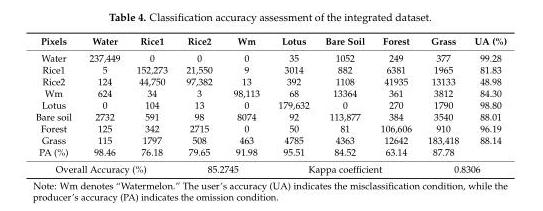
<table><thead><tr><td>Pixels</td><td>Water</td><td>Rice1</td><td>Rice2</td><td>Wm</td><td>Lotus</td><td>Bare Soil</td><td>Forest</td><td>Grass</td><td>UA (%)</td></tr></thead><tbody><tr><td>Water</td><td>237,449</td><td>0</td><td>0</td><td>0</td><td>35</td><td>1052</td><td>249</td><td>377</td><td>99.28</td></tr><tr><td>Rice1</td><td>5</td><td>152,273</td><td>21,550</td><td>9</td><td>3014</td><td>882</td><td>6381</td><td>1965</td><td>81.83</td></tr><tr><td>Rice2</td><td>124</td><td>44,750</td><td>97,382</td><td>13</td><td>392</td><td>1108</td><td>41935</td><td>13133</td><td>48.98</td></tr><tr><td>Wm</td><td>624</td><td>34</td><td>3</td><td>98,113</td><td>68</td><td>13364</td><td>361</td><td>3812</td><td>84.30</td></tr><tr><td>Lotus</td><td>0</td><td>104</td><td>13</td><td>0</td><td>179,632</td><td>0</td><td>270</td><td>1790</td><td>98.80</td></tr><tr><td>Bare soil</td><td>2732</td><td>591</td><td>98</td><td>8074</td><td>92</td><td>113,877</td><td>384</td><td>3540</td><td>88.01</td></tr><tr><td>Forest</td><td>125</td><td>342</td><td>2715</td><td>0</td><td>50</td><td>81</td><td>106,606</td><td>910</td><td>96.19</td></tr><tr><td>Grass</td><td>115</td><td>1797</td><td>508</td><td>463</td><td>4785</td><td>4363</td><td>12642</td><td>183,418</td><td>88.14</td></tr><tr><td>PA (%)</td><td>98.46</td><td>76.18</td><td>79.65</td><td>91.98</td><td>95.51</td><td>84.52</td><td>63.14</td><td>87.78</td><td></td></tr><tr><td colspan="3">Overall Accuracy (%)</td><td colspan="2">85.2745</td><td colspan="3">Kappa coefficient</td><td colspan="2">0.8306</td></tr></tbody></table>